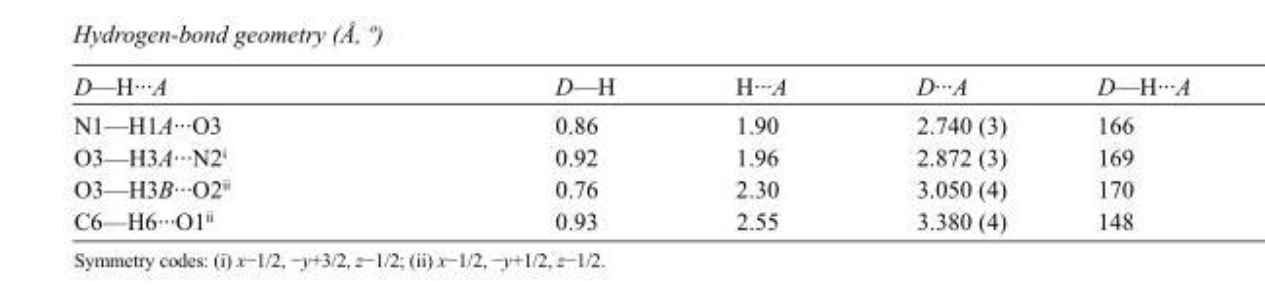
<table><tbody><tr><td>D—H···A</td><td>D—H</td><td>H···A</td><td>D···A</td><td>D—H···A</td></tr><tr><td>N1—H1A···O3</td><td>0.86</td><td>1.90</td><td>2.740 (3)</td><td>166</td></tr><tr><td>O3—H3A···N2<sup>i</sup></td><td>0.92</td><td>1.96</td><td>2.872 (3)</td><td>169</td></tr><tr><td>O3—H3B···O2<sup>ii</sup></td><td>0.76</td><td>2.30</td><td>3.050 (4)</td><td>170</td></tr><tr><td>C6—H6···O1<sup>ii</sup></td><td>0.93</td><td>2.55</td><td>3.380 (4)</td><td>148</td></tr></tbody></table>